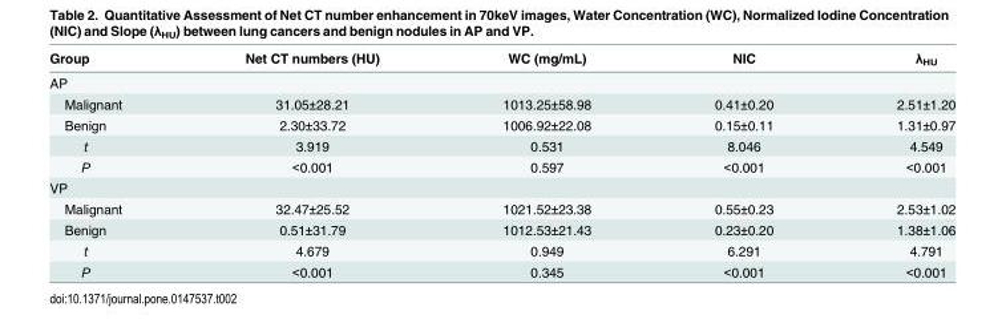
<table><thead><tr><td>Group</td><td>Net CT numbers (HU)</td><td>WC (mg/mL)</td><td>NIC</td><td>λ<sub>HU</sub></td></tr></thead><tbody><tr><td colspan="5">AP</td></tr><tr><td>Malignant</td><td>31.05±28.21</td><td>1013.25±58.98</td><td>0.41±0.20</td><td>2.51±1.20</td></tr><tr><td>Benign</td><td>2.30±33.72</td><td>1006.92±22.08</td><td>0.15±0.11</td><td>1.31±0.97</td></tr><tr><td>t</td><td>3.919</td><td>0.531</td><td>8.046</td><td>4.549</td></tr><tr><td>P</td><td>&lt;0.001</td><td>0.597</td><td>&lt;0.001</td><td>&lt;0.001</td></tr><tr><td colspan="5">VP</td></tr><tr><td>Malignant</td><td>32.47±25.52</td><td>1021.52±23.38</td><td>0.55±0.23</td><td>2.53±1.02</td></tr><tr><td>Benign</td><td>0.51±31.79</td><td>1012.53±21.43</td><td>0.23±0.20</td><td>1.38±1.06</td></tr><tr><td>t</td><td>4.679</td><td>0.949</td><td>6.291</td><td>4.791</td></tr><tr><td>P</td><td>&lt;0.001</td><td>0.345</td><td>&lt;0.001</td><td>&lt;0.001</td></tr></tbody></table>